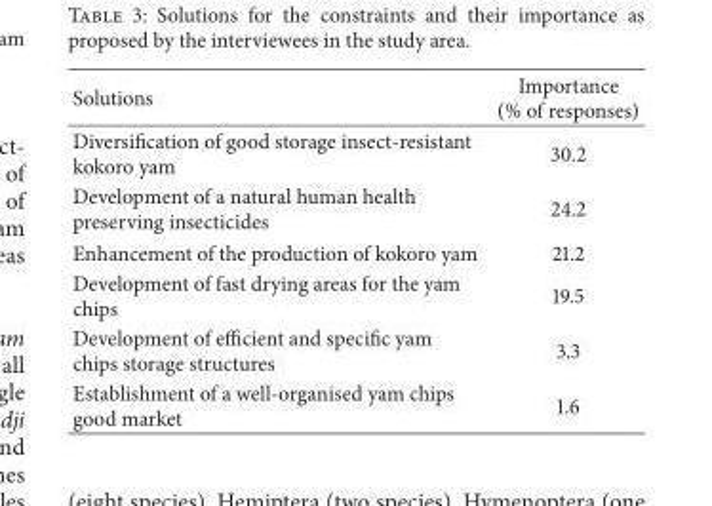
<table><thead><tr><td>Solutions</td><td>Importance (% of responses)</td></tr></thead><tbody><tr><td>Diversification of good storage insect-resistant kokoro yam</td><td>30.2</td></tr><tr><td>Development of a natural human health preserving insecticides</td><td>24.2</td></tr><tr><td>Enhancement of the production of kokoro yam</td><td>21.2</td></tr><tr><td>Development of fast drying areas for the yam chips</td><td>19.5</td></tr><tr><td>Development of efficient and specific yam chips storage structures</td><td>3.3</td></tr><tr><td>Establishment of a well-organised yam chips good market</td><td>1.6</td></tr></tbody></table>